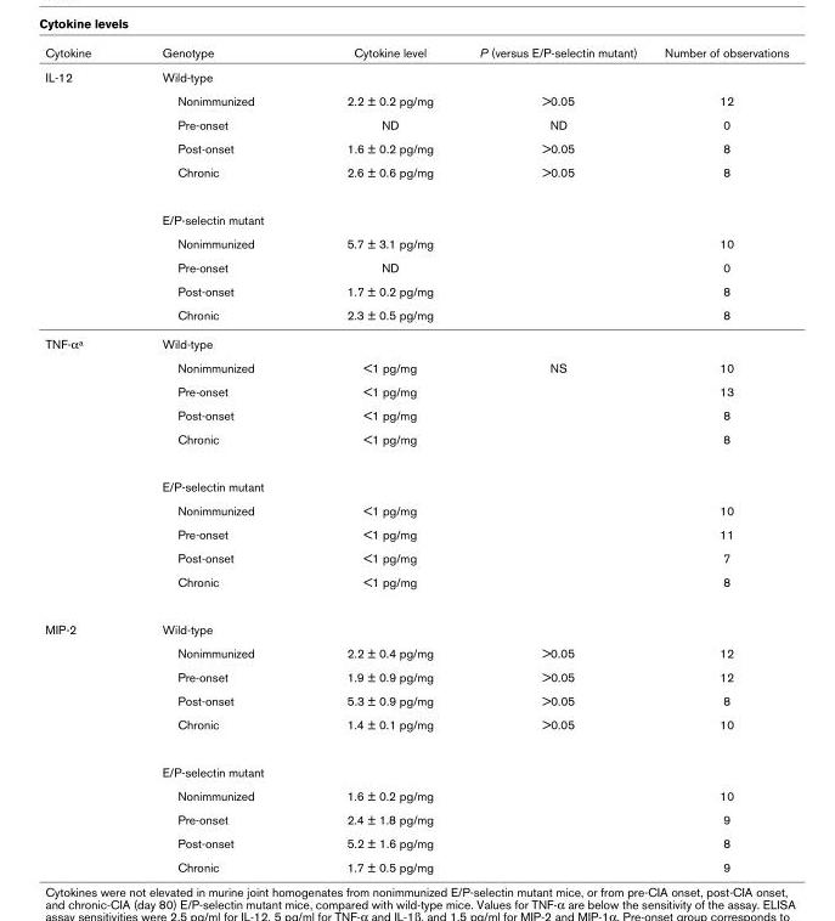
<table><thead><tr><td>Cytokine</td><td>Genotype</td><td>Cytokine level</td><td>P (versus E/P-selectin mutant)</td><td>Number of observations</td></tr></thead><tbody><tr><td rowspan="10">IL-12</td><td>Wild-type</td><td></td><td></td><td></td></tr><tr><td>Nonimmunized</td><td>2.2 ± 0.2 pg/mg</td><td>&gt;0.05</td><td>12</td></tr><tr><td>Pre-onset</td><td>ND</td><td>ND</td><td>0</td></tr><tr><td>Post-onset</td><td>1.6 ± 0.2 pg/mg</td><td>&gt;0.05</td><td>8</td></tr><tr><td>Chronic</td><td>2.6 ± 0.6 pg/mg</td><td>&gt;0.05</td><td>8</td></tr><tr><td>E/P-selectin mutant</td><td></td><td></td><td></td></tr><tr><td>Nonimmunized</td><td>5.7 ± 3.1 pg/mg</td><td></td><td>10</td></tr><tr><td>Pre-onset</td><td>ND</td><td></td><td>0</td></tr><tr><td>Post-onset</td><td>1.7 ± 0.2 pg/mg</td><td></td><td>8</td></tr><tr><td>Chronic</td><td>2.3 ± 0.5 pg/mg</td><td></td><td>8</td></tr><tr><td rowspan="10">TNF-αa</td><td>Wild-type</td><td></td><td></td><td></td></tr><tr><td>Nonimmunized</td><td>&lt;1 pg/mg</td><td>NS</td><td>10</td></tr><tr><td>Pre-onset</td><td>&lt;1 pg/mg</td><td></td><td>13</td></tr><tr><td>Post-onset</td><td>&lt;1 pg/mg</td><td></td><td>8</td></tr><tr><td>Chronic</td><td>&lt;1 pg/mg</td><td></td><td>8</td></tr><tr><td>E/P-selectin mutant</td><td></td><td></td><td></td></tr><tr><td>Nonimmunized</td><td>&lt;1 pg/mg</td><td></td><td>10</td></tr><tr><td>Pre-onset</td><td>&lt;1 pg/mg</td><td></td><td>11</td></tr><tr><td>Post-onset</td><td>&lt;1 pg/mg</td><td></td><td>7</td></tr><tr><td>Chronic</td><td>&lt;1 pg/mg</td><td></td><td>8</td></tr><tr><td rowspan="10">MIP-2</td><td>Wild-type</td><td></td><td></td><td></td></tr><tr><td>Nonimmunized</td><td>2.2 ± 0.4 pg/mg</td><td>&gt;0.05</td><td>12</td></tr><tr><td>Pre-onset</td><td>1.9 ± 0.9 pg/mg</td><td>&gt;0.05</td><td>12</td></tr><tr><td>Post-onset</td><td>5.3 ± 0.9 pg/mg</td><td>&gt;0.05</td><td>8</td></tr><tr><td>Chronic</td><td>1.4 ± 0.1 pg/mg</td><td>&gt;0.05</td><td>10</td></tr><tr><td>E/P-selectin mutant</td><td></td><td></td><td></td></tr><tr><td>Nonimmunized</td><td>1.6 ± 0.2 pg/mg</td><td></td><td>10</td></tr><tr><td>Pre-onset</td><td>2.4 ± 1.8 pg/mg</td><td></td><td>9</td></tr><tr><td>Post-onset</td><td>5.2 ± 1.6 pg/mg</td><td></td><td>8</td></tr><tr><td>Chronic</td><td>1.7 ± 0.5 pg/mg</td><td></td><td>9</td></tr></tbody></table>